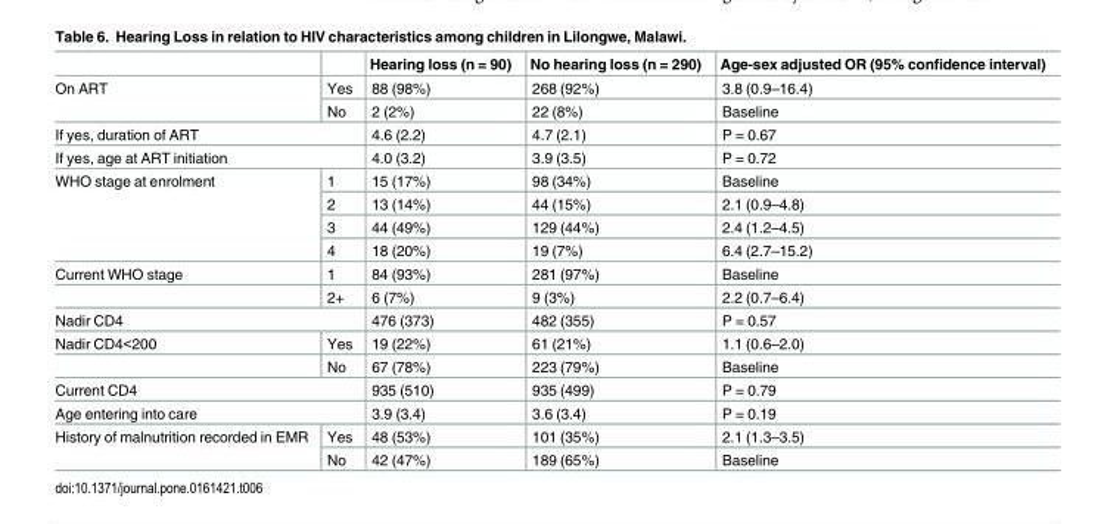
<table><thead><tr><td></td><td></td><td>Hearing loss (n = 90)</td><td>No hearing loss (n = 290)</td><td>Age-sex adjusted OR (95% confidence interval)</td></tr></thead><tbody><tr><td rowspan="2">On ART</td><td>Yes</td><td>88 (98%)</td><td>268 (92%)</td><td>3.8 (0.9–16.4)</td></tr><tr><td>No</td><td>2 (2%)</td><td>22 (8%)</td><td>Baseline</td></tr><tr><td colspan="2">If yes, duration of ART</td><td>4.6 (2.2)</td><td>4.7 (2.1)</td><td>P = 0.67</td></tr><tr><td colspan="2">If yes, age at ART initiation</td><td>4.0 (3.2)</td><td>3.9 (3.5)</td><td>P = 0.72</td></tr><tr><td rowspan="4">WHO stage at enrolment</td><td>1</td><td>15 (17%)</td><td>98 (34%)</td><td>Baseline</td></tr><tr><td>2</td><td>13 (14%)</td><td>44 (15%)</td><td>2.1 (0.9–4.8)</td></tr><tr><td>3</td><td>44 (49%)</td><td>129 (44%)</td><td>2.4 (1.2–4.5)</td></tr><tr><td>4</td><td>18 (20%)</td><td>19 (7%)</td><td>6.4 (2.7–15.2)</td></tr><tr><td rowspan="2">Current WHO stage</td><td>1</td><td>84 (93%)</td><td>281 (97%)</td><td>Baseline</td></tr><tr><td>2+</td><td>6 (7%)</td><td>9 (3%)</td><td>2.2 (0.7–6.4)</td></tr><tr><td colspan="2">Nadir CD4</td><td>476 (373)</td><td>482 (355)</td><td>P = 0.57</td></tr><tr><td rowspan="2">Nadir CD4&lt;200</td><td>Yes</td><td>19 (22%)</td><td>61 (21%)</td><td>1.1 (0.6–2.0)</td></tr><tr><td>No</td><td>67 (78%)</td><td>223 (79%)</td><td>Baseline</td></tr><tr><td colspan="2">Current CD4</td><td>935 (510)</td><td>935 (499)</td><td>P = 0.79</td></tr><tr><td colspan="2">Age entering into care</td><td>3.9 (3.4)</td><td>3.6 (3.4)</td><td>P = 0.19</td></tr><tr><td rowspan="2">History of malnutrition recorded in EMR</td><td>Yes</td><td>48 (53%)</td><td>101 (35%)</td><td>2.1 (1.3–3.5)</td></tr><tr><td>No</td><td>42 (47%)</td><td>189 (65%)</td><td>Baseline</td></tr></tbody></table>